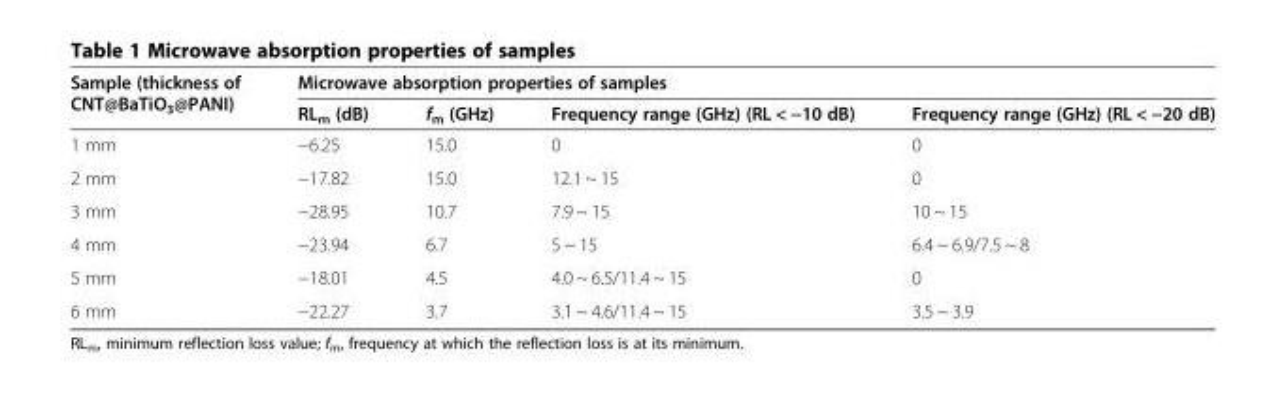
<table><thead><tr><td rowspan="2">Sample (thickness of CNT@BaTiO<sub>3</sub>@PANI)</td><td colspan="4">Microwave absorption properties of samples</td></tr><tr><td>RL<sub>m</sub> (dB)</td><td>f<sub>m</sub> (GHz)</td><td>Frequency range (GHz) (RL &lt; −10 dB)</td><td>Frequency range (GHz) (RL &lt; −20 dB)</td></tr></thead><tbody><tr><td>1 mm</td><td>−6.25</td><td>15.0</td><td>0</td><td>0</td></tr><tr><td>2 mm</td><td>−17.82</td><td>15.0</td><td>12.1 ~ 15</td><td>0</td></tr><tr><td>3 mm</td><td>−28.95</td><td>10.7</td><td>7.9 ~ 15</td><td>10 ~ 15</td></tr><tr><td>4 mm</td><td>−23.94</td><td>6.7</td><td>5 ~ 15</td><td>6.4 ~ 6.9/7.5 ~ 8</td></tr><tr><td>5 mm</td><td>−18.01</td><td>4.5</td><td>4.0 ~ 6.5/11.4 ~ 15</td><td>0</td></tr><tr><td>6 mm</td><td>−22.27</td><td>3.7</td><td>3.1 ~ 4.6/11.4 ~ 15</td><td>3.5 ~ 3.9</td></tr></tbody></table>